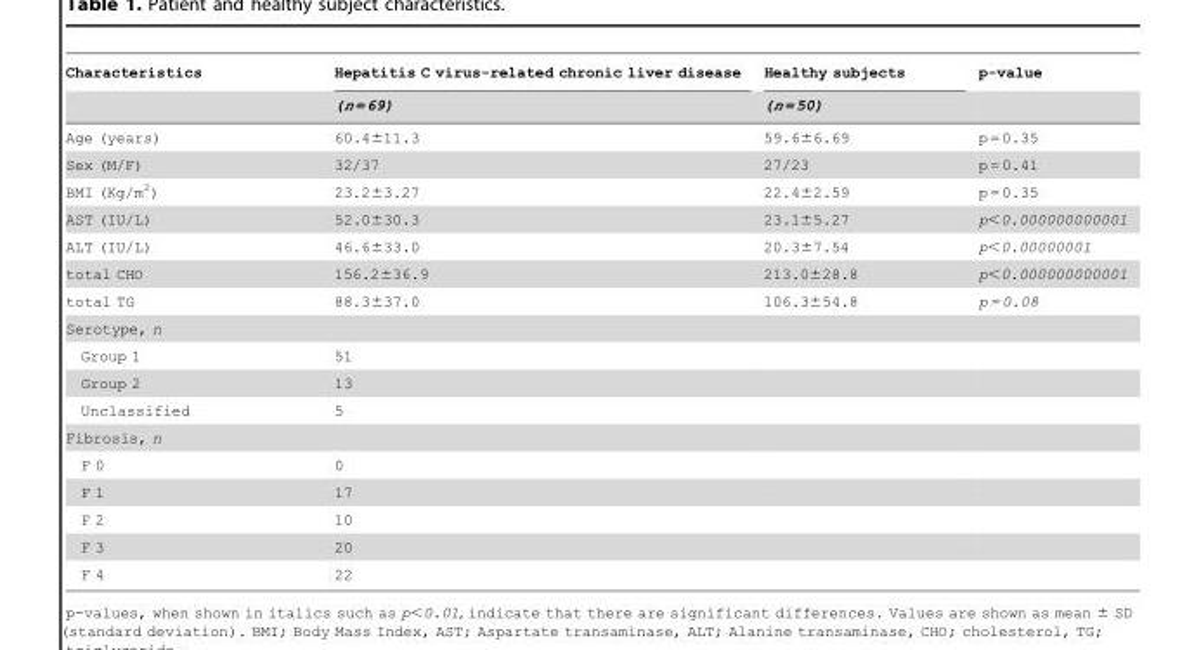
<table><thead><tr><td rowspan="2">Characteristics</td><td rowspan="2">Hepatitis C virus-related chronic liver disease (n = 69)</td><td rowspan="2">Healthy subjects (n = 50)</td><td rowspan="2">p-value</td></tr><tr></tr></thead><tbody><tr><td>Age (years)</td><td>60.4±11.3</td><td>59.6±6.69</td><td>p = 0.35</td></tr><tr><td>Sex (M/F)</td><td>32/37</td><td>27/23</td><td>p = 0.41</td></tr><tr><td>BMI (Kg/m<sup>2</sup>)</td><td>23.2±3.27</td><td>22.4±2.59</td><td>p = 0.35</td></tr><tr><td>AST (IU/L)</td><td>52.0±30.3</td><td>23.1±5.27</td><td>p&lt;0.000000000001</td></tr><tr><td>ALT (IU/L)</td><td>46.6±33.0</td><td>20.3±7.54</td><td>p&lt;0.00000001</td></tr><tr><td>total CHO</td><td>156.2±36.9</td><td>213.0±28.8</td><td>p&lt;0.000000000001</td></tr><tr><td>total TG</td><td>88.3±37.0</td><td>106.3±54.8</td><td>p = 0.08</td></tr><tr><td colspan="4">Serotype, n</td></tr><tr><td>Group 1</td><td>51</td><td></td><td></td></tr><tr><td>Group 2</td><td>13</td><td></td><td></td></tr><tr><td>Unclassified</td><td>5</td><td></td><td></td></tr><tr><td colspan="4">Fibrosis, n</td></tr><tr><td>F 0</td><td>0</td><td></td><td></td></tr><tr><td>F 1</td><td>17</td><td></td><td></td></tr><tr><td>F 2</td><td>10</td><td></td><td></td></tr><tr><td>F 3</td><td>20</td><td></td><td></td></tr><tr><td>F 4</td><td>22</td><td></td><td></td></tr></tbody></table>